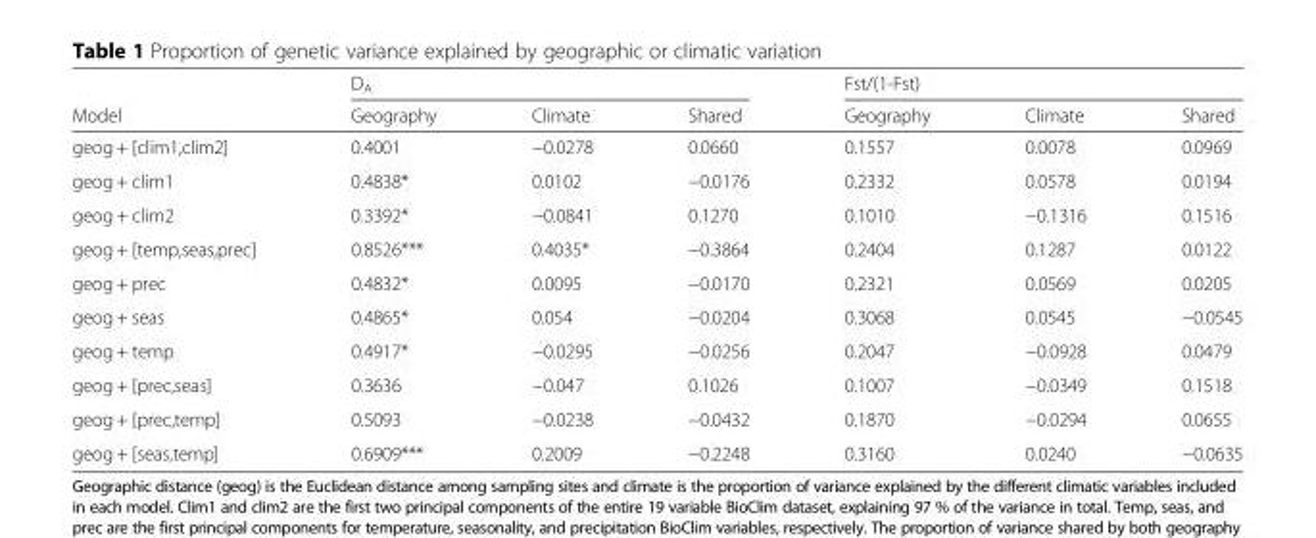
<table><thead><tr><td rowspan="2">Model</td><td colspan="3">D<sub>A</sub></td><td colspan="3">Fst/(1-Fst)</td></tr><tr><td>Geography</td><td>Climate</td><td>Shared</td><td>Geography</td><td>Climate</td><td>Shared</td></tr></thead><tbody><tr><td>geog + [clim1,clim2]</td><td>0.4001</td><td>−0.0278</td><td>0.0660</td><td>0.1557</td><td>0.0078</td><td>0.0969</td></tr><tr><td>geog + clim1</td><td>0.4838*</td><td>0.0102</td><td>−0.0176</td><td>0.2332</td><td>0.0578</td><td>0.0194</td></tr><tr><td>geog + clim2</td><td>0.3392*</td><td>−0.0841</td><td>0.1270</td><td>0.1010</td><td>−0.1316</td><td>0.1516</td></tr><tr><td>geog + [temp,seas,prec]</td><td>0.8526***</td><td>0.4035*</td><td>−0.3864</td><td>0.2404</td><td>0.1287</td><td>0.0122</td></tr><tr><td>geog + prec</td><td>0.4832*</td><td>0.0095</td><td>−0.0170</td><td>0.2321</td><td>0.0569</td><td>0.0205</td></tr><tr><td>geog + seas</td><td>0.4865*</td><td>0.054</td><td>−0.0204</td><td>0.3068</td><td>0.0545</td><td>−0.0545</td></tr><tr><td>geog + temp</td><td>0.4917*</td><td>−0.0295</td><td>−0.0256</td><td>0.2047</td><td>−0.0928</td><td>0.0479</td></tr><tr><td>geog + [prec,seas]</td><td>0.3636</td><td>−0.047</td><td>0.1026</td><td>0.1007</td><td>−0.0349</td><td>0.1518</td></tr><tr><td>geog + [prec,temp]</td><td>0.5093</td><td>−0.0238</td><td>−0.0432</td><td>0.1870</td><td>−0.0294</td><td>0.0655</td></tr><tr><td>geog + [seas,temp]</td><td>0.6909***</td><td>0.2009</td><td>−0.2248</td><td>0.3160</td><td>0.0240</td><td>−0.0635</td></tr></tbody></table>